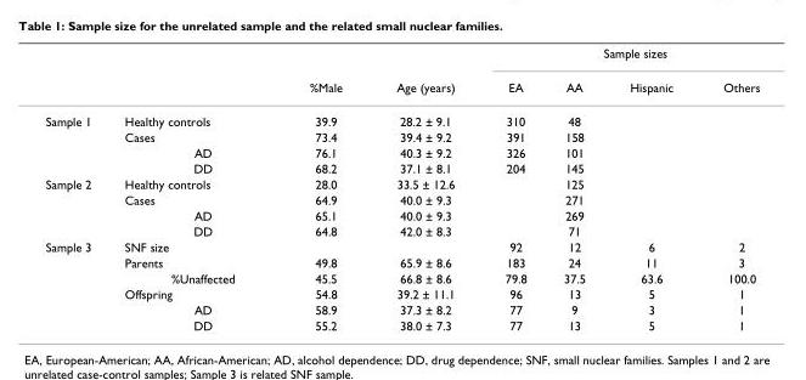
<table><thead><tr><td rowspan="2"></td><td rowspan="2"></td><td rowspan="2">%Male</td><td rowspan="2">Age (years)</td><td colspan="4">Sample sizes</td></tr><tr><td>EA</td><td>AA</td><td>Hispanic</td><td>Others</td></tr></thead><tbody><tr><td rowspan="4">Sample 1</td><td>Healthy controls</td><td>39.9</td><td>28.2 ± 9.1</td><td>310</td><td>48</td><td></td><td></td></tr><tr><td>Cases</td><td>73.4</td><td>39.4 ± 9.2</td><td>391</td><td>158</td><td></td><td></td></tr><tr><td>AD</td><td>76.1</td><td>40.3 ± 9.2</td><td>326</td><td>101</td><td></td><td></td></tr><tr><td>DD</td><td>68.2</td><td>37.1 ± 8.1</td><td>204</td><td>145</td><td></td><td></td></tr><tr><td rowspan="4">Sample 2</td><td>Healthy controls</td><td>28.0</td><td>33.5 ± 12.6</td><td></td><td>125</td><td></td><td></td></tr><tr><td>Cases</td><td>64.9</td><td>40.0 ± 9.3</td><td></td><td>271</td><td></td><td></td></tr><tr><td>AD</td><td>65.1</td><td>40.0 ± 9.3</td><td></td><td>269</td><td></td><td></td></tr><tr><td>DD</td><td>64.8</td><td>42.0 ± 8.3</td><td></td><td>71</td><td></td><td></td></tr><tr><td rowspan="6">Sample 3</td><td>SNF size</td><td></td><td></td><td>92</td><td>12</td><td>6</td><td>2</td></tr><tr><td>Parents</td><td>49.8</td><td>65.9 ± 8.6</td><td>183</td><td>24</td><td>11</td><td>3</td></tr><tr><td>%Unaffected</td><td>45.5</td><td>66.8 ± 8.6</td><td>79.8</td><td>37.5</td><td>63.6</td><td>100.0</td></tr><tr><td>Offspring</td><td>54.8</td><td>39.2 ± 11.1</td><td>96</td><td>13</td><td>5</td><td>1</td></tr><tr><td>AD</td><td>58.9</td><td>37.3 ± 8.2</td><td>77</td><td>9</td><td>3</td><td>1</td></tr><tr><td>DD</td><td>55.2</td><td>38.0 ± 7.3</td><td>77</td><td>13</td><td>5</td><td>1</td></tr></tbody></table>